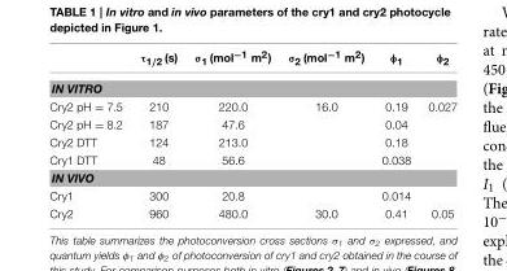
<table><thead><tr><td></td><td>τ1/2 (s)</td><td>σ<sub>1</sub> (mol<sup>−1</sup> m<sup>2</sup>)</td><td>σ2 (mol<sup>−1</sup> m<sup>2</sup>)</td><td>φ<sub>1</sub></td><td>φ<sub>2</sub></td></tr></thead><tbody><tr><td colspan="6">IN VITRO</td></tr><tr><td>Cry2 pH = 7.5</td><td>210</td><td>220.0</td><td>16.0</td><td>0.19</td><td>0.027</td></tr><tr><td>Cry2 pH = 8.2</td><td>187</td><td>47.6</td><td></td><td>0.04</td><td></td></tr><tr><td>Cry2 DTT</td><td>124</td><td>213.0</td><td></td><td>0.18</td><td></td></tr><tr><td>Cry1 DTT</td><td>48</td><td>56.6</td><td></td><td>0.038</td><td></td></tr><tr><td colspan="6">IN VIVO</td></tr><tr><td>Cry1</td><td>300</td><td>20.8</td><td></td><td>0.014</td><td></td></tr><tr><td>Cry2</td><td>960</td><td>480.0</td><td>30.0</td><td>0.41</td><td>0.05</td></tr></tbody></table>